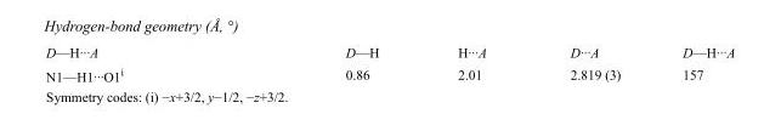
<table><tbody><tr><td>D—H···A</td><td>D—H</td><td>H···A</td><td>D···A</td><td>D—H···A</td></tr><tr><td>N1—H1···O1<sup>i</sup></td><td>0.86</td><td>2.01</td><td>2.819 (3)</td><td>157</td></tr></tbody></table>